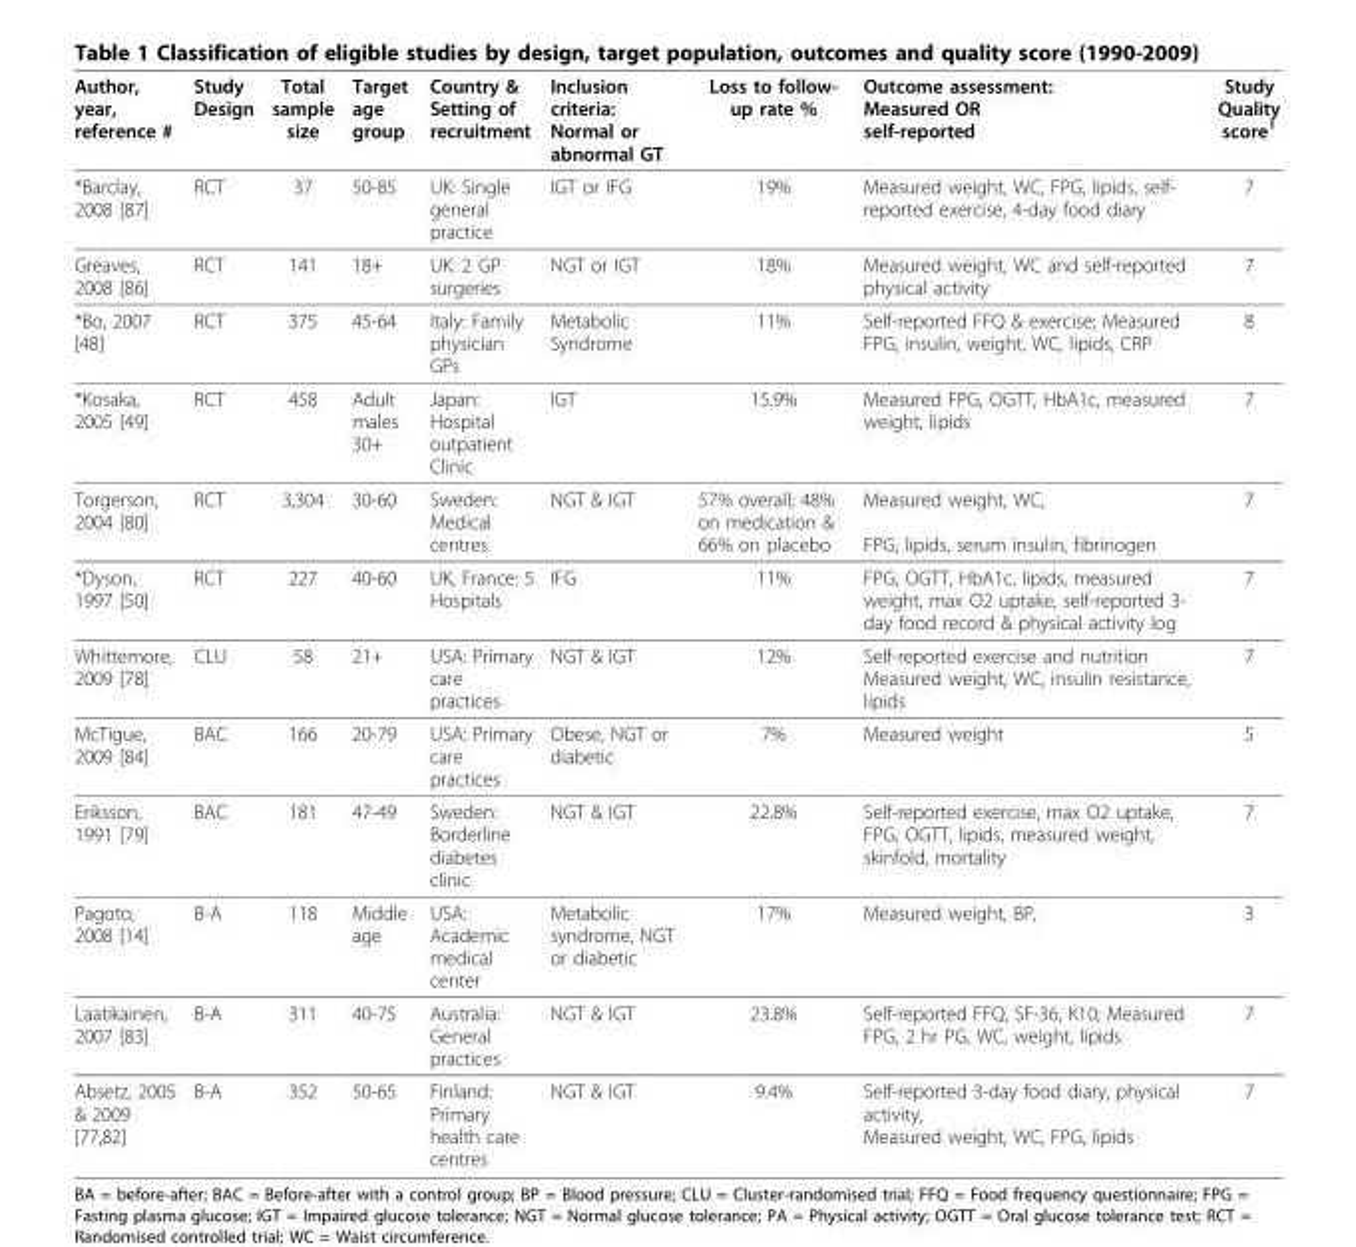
<table><thead><tr><td>Author, year, reference #</td><td>Study Design</td><td>Total sample size</td><td>Target age group</td><td>Country &amp; Setting of recruitment</td><td>Inclusion criteria: Normal or abnormal GT</td><td>Loss to follow- up rate %</td><td>Outcome assessment: Measured OR self-reported</td><td>Study Quality score<sup>1</sup></td></tr></thead><tbody><tr><td>*Barclay, 2008 [87]</td><td>RCT</td><td>37</td><td>50-85</td><td>UK: Single general practice</td><td>IGT or IFG</td><td>19%</td><td>Measured weight, WC, FPG, lipids, self- reported exercise, 4-day food diary</td><td>7</td></tr><tr><td>Greaves, 2008 [86]</td><td>RCT</td><td>141</td><td>18+</td><td>UK: 2 GP surgeries</td><td>NGT or IGT</td><td>18%</td><td>Measured weight, WC and self-reported physical activity</td><td>7</td></tr><tr><td>*Bo, 2007 [48]</td><td>RCT</td><td>375</td><td>45-64</td><td>Italy: Family physician GPs</td><td>Metabolic Syndrome</td><td>11%</td><td>Self-reported FFQ &amp; exercise; Measured FPG, insulin, weight, WC, lipids, CRP</td><td>8</td></tr><tr><td>*Kosaka, 2005 [49]</td><td>RCT</td><td>458</td><td>Adult males 30+</td><td>Japan: Hospital outpatient Clinic</td><td>IGT</td><td>15.9%</td><td>Measured FPG, OGTT, HbA1c, measured weight, lipids</td><td>7</td></tr><tr><td>Torgerson, 2004 [80]</td><td>RCT</td><td>3,304</td><td>30-60</td><td>Sweden: Medical centres</td><td>NGT &amp; IGT</td><td>57% overall; 48% on medication &amp; 66% on placebo</td><td>Measured weight, WC, FPG, lipids, serum insulin, fibrinogen</td><td>7</td></tr><tr><td>*Dyson, 1997 [50]</td><td>RCT</td><td>227</td><td>40-60</td><td>UK, France: 5 Hospitals</td><td>IFG</td><td>11%</td><td>FPG, OGTT, HbA1c, lipids, measured weight, max O2 uptake, self-reported 3- day food record &amp; physical activity log</td><td>7</td></tr><tr><td>Whittemore, 2009 [78]</td><td>CLU</td><td>58</td><td>21+</td><td>USA: Primary care practices</td><td>NGT &amp; IGT</td><td>12%</td><td>Self-reported exercise and nutrition Measured weight, WC, insulin resistance, lipids</td><td>7</td></tr><tr><td>McTigue, 2009 [84]</td><td>BAC</td><td>166</td><td>20-79</td><td>USA: Primary care practices</td><td>Obese, NGT or diabetic</td><td>7%</td><td>Measured weight</td><td>5</td></tr><tr><td>Eriksson, 1991 [79]</td><td>BAC</td><td>181</td><td>47-49</td><td>Sweden: Borderline diabetes clinic</td><td>NGT &amp; IGT</td><td>22.8%</td><td>Self-reported exercise, max O2 uptake, FPG, OGTT, lipids, measured weight, skinfold, mortality</td><td>7</td></tr><tr><td>Pagoto, 2008 [14]</td><td>B-A</td><td>118</td><td>Middle age</td><td>USA: Academic medical center</td><td>Metabolic syndrome, NGT or diabetic</td><td>17%</td><td>Measured weight, BP,</td><td>3</td></tr><tr><td>Laatikainen, 2007 [83]</td><td>B-A</td><td>311</td><td>40-75</td><td>Australia: General practices</td><td>NGT &amp; IGT</td><td>23.8%</td><td>Self-reported FFQ, SF-36, K10; Measured FPG, 2 hr PG, WC, weight, lipids</td><td>7</td></tr><tr><td>Absetz, 2005 &amp; 2009 [77,82]</td><td>B-A</td><td>352</td><td>50-65</td><td>Finland: Primary health care centres</td><td>NGT &amp; IGT</td><td>9.4%</td><td>Self-reported 3-day food diary, physical activity, Measured weight, WC, FPG, lipids</td><td>7</td></tr></tbody></table>